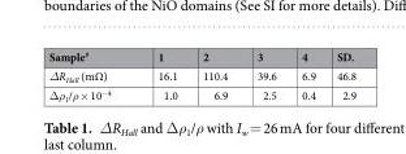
<table><thead><tr><td>Sample<sup>#</sup></td><td>1</td><td>2</td><td>3</td><td>4</td><td>SD.</td></tr></thead><tbody><tr><td>ΔR<sub>Hall</sub> (mΩ)</td><td>16.1</td><td>110.4</td><td>39.6</td><td>6.9</td><td>46.8</td></tr><tr><td>Δρ<sub>1</sub>/ρ × 10<sup>−4</sup></td><td>1.0</td><td>6.9</td><td>2.5</td><td>0.4</td><td>2.9</td></tr></tbody></table>